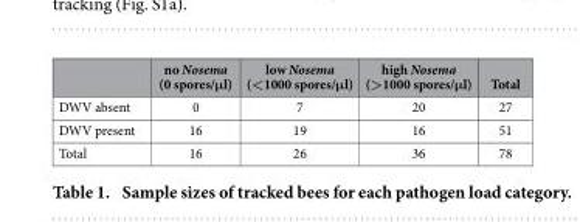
<table><thead><tr><td></td><td>no Nosema (0 spores/μl)</td><td>low Nosema (&lt;1000 spores/μl)</td><td>high Nosema (&gt;1000 spores/μl)</td><td>Total</td></tr></thead><tbody><tr><td>DWV absent</td><td>0</td><td>7</td><td>20</td><td>27</td></tr><tr><td>DWV present</td><td>16</td><td>19</td><td>16</td><td>51</td></tr><tr><td>Total</td><td>16</td><td>26</td><td>36</td><td>78</td></tr></tbody></table>